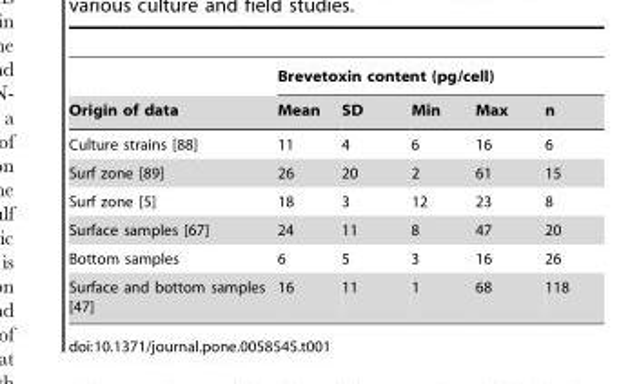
<table><thead><tr><td rowspan="2">Origin of data</td><td colspan="5">Brevetoxin content (pg/cell)</td></tr><tr><td>Mean</td><td>SD</td><td>Min</td><td>Max</td><td>n</td></tr></thead><tbody><tr><td>Culture strains [88]</td><td>11</td><td>4</td><td>6</td><td>16</td><td>6</td></tr><tr><td>Surf zone [89]</td><td>26</td><td>20</td><td>2</td><td>61</td><td>15</td></tr><tr><td>Surf zone [5]</td><td>18</td><td>3</td><td>12</td><td>23</td><td>8</td></tr><tr><td>Surface samples [67]</td><td>24</td><td>11</td><td>8</td><td>47</td><td>20</td></tr><tr><td>Bottom samples</td><td>6</td><td>5</td><td>3</td><td>16</td><td>26</td></tr><tr><td>Surface and bottom samples [47]</td><td>16</td><td>11</td><td>1</td><td>68</td><td>118</td></tr></tbody></table>